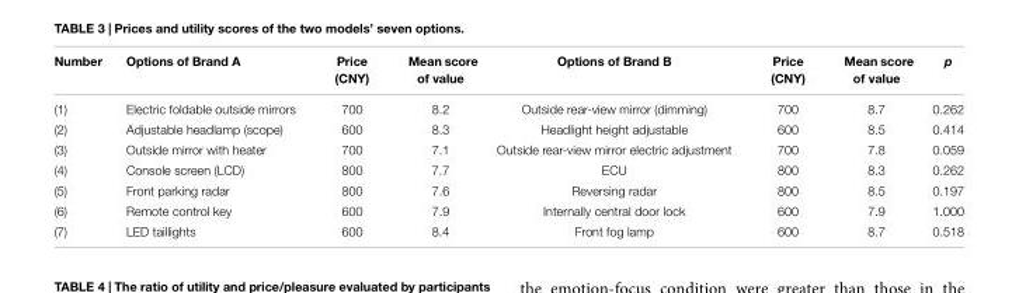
<table><thead><tr><td>Number</td><td>Options of Brand A</td><td>Price (CNY)</td><td>Mean score of value</td><td>Options of Brand B</td><td>Price (CNY)</td><td>Mean score of value</td><td>p</td></tr></thead><tbody><tr><td>(1)</td><td>Electric foldable outside mirrors</td><td>700</td><td>8.2</td><td>Outside rear-view mirror (dimming)</td><td>700</td><td>8.7</td><td>0.262</td></tr><tr><td>(2)</td><td>Adjustable headlamp (scope)</td><td>600</td><td>8.3</td><td>Headlight height adjustable</td><td>600</td><td>8.5</td><td>0.414</td></tr><tr><td>(3)</td><td>Outside mirror with heater</td><td>700</td><td>7.1</td><td>Outside rear-view mirror electric adjustment</td><td>700</td><td>7.8</td><td>0.059</td></tr><tr><td>(4)</td><td>Console screen (LCD)</td><td>800</td><td>7.7</td><td>ECU</td><td>800</td><td>8.3</td><td>0.262</td></tr><tr><td>(5)</td><td>Front parking radar</td><td>800</td><td>7.6</td><td>Reversing radar</td><td>800</td><td>8.5</td><td>0.197</td></tr><tr><td>(6)</td><td>Remote control key</td><td>600</td><td>7.9</td><td>Internally central door lock</td><td>600</td><td>7.9</td><td>1.000</td></tr><tr><td>(7)</td><td>LED taillights</td><td>600</td><td>8.4</td><td>Front fog lamp</td><td>600</td><td>8.7</td><td>0.518</td></tr></tbody></table>